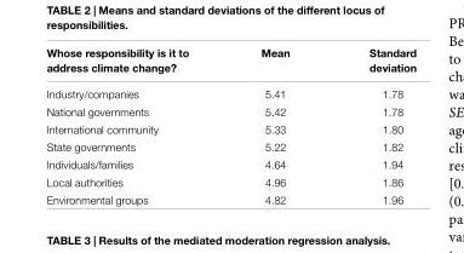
<table><thead><tr><td>Whose responsibility is it to address climate change?</td><td>Mean</td><td>Standard deviation</td></tr></thead><tbody><tr><td>Industry/companies</td><td>5.41</td><td>1.78</td></tr><tr><td>National governments</td><td>5.42</td><td>1.78</td></tr><tr><td>International community</td><td>5.33</td><td>1.80</td></tr><tr><td>State governments</td><td>5.22</td><td>1.82</td></tr><tr><td>Individuals/families</td><td>4.64</td><td>1.94</td></tr><tr><td>Local authorities</td><td>4.96</td><td>1.86</td></tr><tr><td>Environmental groups</td><td>4.82</td><td>1.96</td></tr></tbody></table>